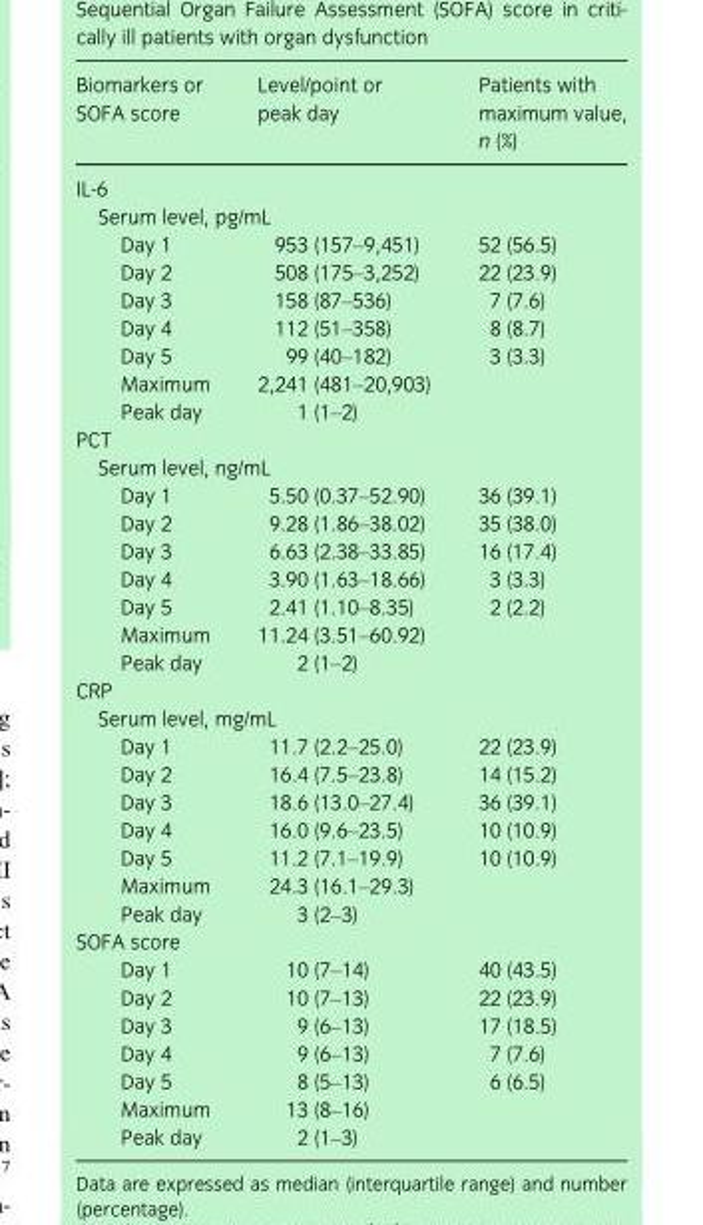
<table><thead><tr><td>Biomarkers or SOFA score</td><td>Level/point or peak day</td><td>Patients with maximum value, n (%)</td></tr></thead><tbody><tr><td colspan="3">IL-6</td></tr><tr><td colspan="3">Serum level, pg/mL</td></tr><tr><td>Day 1</td><td>953 (157–9,451)</td><td>52 (56.5)</td></tr><tr><td>Day 2</td><td>508 (175–3,252)</td><td>22 (23.9)</td></tr><tr><td>Day 3</td><td>158 (87–536)</td><td>7 (7.6)</td></tr><tr><td>Day 4</td><td>112 (51–358)</td><td>8 (8.7)</td></tr><tr><td>Day 5</td><td>99 (40–182)</td><td>3 (3.3)</td></tr><tr><td>Maximum</td><td>2,241 (481–20,903)</td><td></td></tr><tr><td>Peak day</td><td>1 (1–2)</td><td></td></tr><tr><td colspan="3">PCT</td></tr><tr><td colspan="3">Serum level, ng/mL</td></tr><tr><td>Day 1</td><td>5.50 (0.37–52.90)</td><td>36 (39.1)</td></tr><tr><td>Day 2</td><td>9.28 (1.86–38.02)</td><td>35 (38.0)</td></tr><tr><td>Day 3</td><td>6.63 (2.38–33.85)</td><td>16 (17.4)</td></tr><tr><td>Day 4</td><td>3.90 (1.63–18.66)</td><td>3 (3.3)</td></tr><tr><td>Day 5</td><td>2.41 (1.10–8.35)</td><td>2 (2.2)</td></tr><tr><td>Maximum</td><td>11.24 (3.51–60.92)</td><td></td></tr><tr><td>Peak day</td><td>2 (1–2)</td><td></td></tr><tr><td colspan="3">CRP</td></tr><tr><td colspan="3">Serum level, mg/mL</td></tr><tr><td>Day 1</td><td>11.7 (2.2–25.0)</td><td>22 (23.9)</td></tr><tr><td>Day 2</td><td>16.4 (7.5–23.8)</td><td>14 (15.2)</td></tr><tr><td>Day 3</td><td>18.6 (13.0–27.4)</td><td>36 (39.1)</td></tr><tr><td>Day 4</td><td>16.0 (9.6–23.5)</td><td>10 (10.9)</td></tr><tr><td>Day 5</td><td>11.2 (7.1–19.9)</td><td>10 (10.9)</td></tr><tr><td>Maximum</td><td>24.3 (16.1–29.3)</td><td></td></tr><tr><td>Peak day</td><td>3 (2–3)</td><td></td></tr><tr><td colspan="3">SOFA score</td></tr><tr><td>Day 1</td><td>10 (7–14)</td><td>40 (43.5)</td></tr><tr><td>Day 2</td><td>10 (7–13)</td><td>22 (23.9)</td></tr><tr><td>Day 3</td><td>9 (6–13)</td><td>17 (18.5)</td></tr><tr><td>Day 4</td><td>9 (6–13)</td><td>7 (7.6)</td></tr><tr><td>Day 5</td><td>8 (5–13)</td><td>6 (6.5)</td></tr><tr><td>Maximum</td><td>13 (8–16)</td><td></td></tr><tr><td>Peak day</td><td>2 (1–3)</td><td></td></tr></tbody></table>